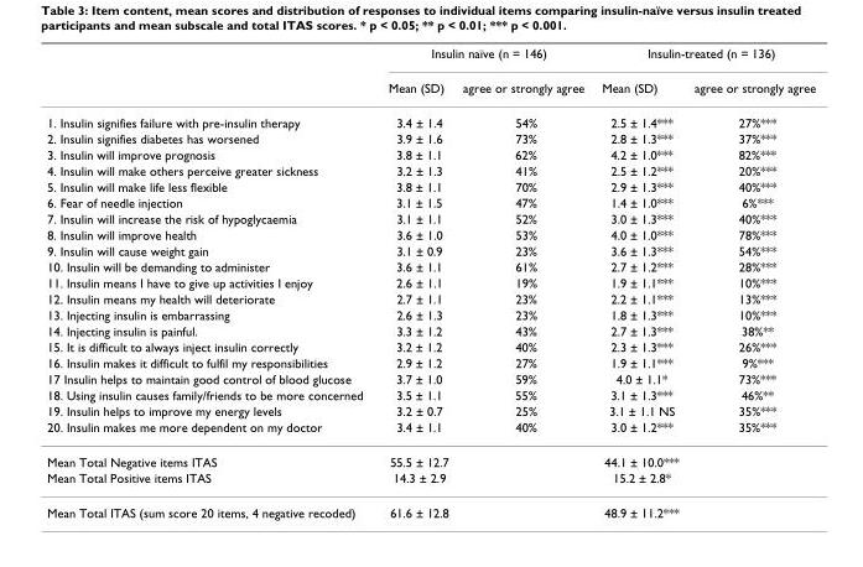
<table><thead><tr><td rowspan="2"></td><td colspan="2">Insulin naïve (n = 146)</td><td colspan="2">Insulin-treated (n = 136)</td></tr><tr><td>Mean (SD)</td><td>agree or strongly agree</td><td>Mean (SD)</td><td>agree or strongly agree</td></tr></thead><tbody><tr><td>1. Insulin signifies failure with pre-insulin therapy</td><td>3.4 ± 1.4</td><td>54%</td><td>2.5 ± 1.4***</td><td>27%***</td></tr><tr><td>2. Insulin signifies diabetes has worsened</td><td>3.9 ± 1.6</td><td>73%</td><td>2.8 ± 1.3***</td><td>37%***</td></tr><tr><td>3. Insulin will improve prognosis</td><td>3.8 ± 1.1</td><td>62%</td><td>4.2 ± 1.0***</td><td>82%***</td></tr><tr><td>4. Insulin will make others perceive greater sickness</td><td>3.2 ± 1.3</td><td>41%</td><td>2.5 ± 1.2***</td><td>20%***</td></tr><tr><td>5. Insulin will make life less flexible</td><td>3.8 ± 1.1</td><td>70%</td><td>2.9 ± 1.3***</td><td>40%***</td></tr><tr><td>6. Fear of needle injection</td><td>3.1 ± 1.5</td><td>47%</td><td>1.4 ± 1.0***</td><td>6%***</td></tr><tr><td>7. Insulin will increase the risk of hypoglycaemia</td><td>3.1 ± 1.1</td><td>52%</td><td>3.0 ± 1.3***</td><td>40%***</td></tr><tr><td>8. Insulin will improve health</td><td>3.6 ± 1.0</td><td>53%</td><td>4.0 ± 1.0***</td><td>78%***</td></tr><tr><td>9. Insulin will cause weight gain</td><td>3.1 ± 0.9</td><td>23%</td><td>3.6 ± 1.3***</td><td>54%***</td></tr><tr><td>10. Insulin will be demanding to administer</td><td>3.6 ± 1.1</td><td>61%</td><td>2.7 ± 1.2***</td><td>28%***</td></tr><tr><td>11. Insulin means I have to give up activities I enjoy</td><td>2.6 ± 1.1</td><td>19%</td><td>1.9 ± 1.1***</td><td>10%***</td></tr><tr><td>12. Insulin means my health will deteriorate</td><td>2.7 ± 1.1</td><td>23%</td><td>2.2 ± 1.1***</td><td>13%***</td></tr><tr><td>13. Injecting insulin is embarrassing</td><td>2.6 ± 1.3</td><td>23%</td><td>1.8 ± 1.3***</td><td>10%***</td></tr><tr><td>14. Injecting insulin is painful.</td><td>3.3 ± 1.2</td><td>43%</td><td>2.7 ± 1.3***</td><td>38%**</td></tr><tr><td>15. It is difficult to always inject insulin correctly</td><td>3.2 ± 1.2</td><td>40%</td><td>2.3 ± 1.3***</td><td>26%***</td></tr><tr><td>16. Insulin makes it difficult to fulfil my responsibilities</td><td>2.9 ± 1.2</td><td>27%</td><td>1.9 ± 1.1***</td><td>9%***</td></tr><tr><td>17 Insulin helps to maintain good control of blood glucose</td><td>3.7 ± 1.0</td><td>59%</td><td>4.0 ± 1.1*</td><td>73%***</td></tr><tr><td>18. Using insulin causes family/friends to be more concerned</td><td>3.5 ± 1.1</td><td>55%</td><td>3.1 ± 1.3***</td><td>46%**</td></tr><tr><td>19. Insulin helps to improve my energy levels</td><td>3.2 ± 0.7</td><td>25%</td><td>3.1 ± 1.1 NS</td><td>35%***</td></tr><tr><td>20. Insulin makes me more dependent on my doctor</td><td>3.4 ± 1.1</td><td>40%</td><td>3.0 ± 1.2***</td><td>35%***</td></tr><tr><td>Mean Total Negative items ITAS</td><td>55.5 ± 12.7</td><td></td><td>44.1 ± 10.0***</td><td></td></tr><tr><td>Mean Total Positive items ITAS</td><td>14.3 ± 2.9</td><td></td><td>15.2 ± 2.8*</td><td></td></tr><tr><td>Mean Total ITAS (sum score 20 items, 4 negative recoded)</td><td>61.6 ± 12.8</td><td></td><td>48.9 ± 11.2***</td><td></td></tr></tbody></table>